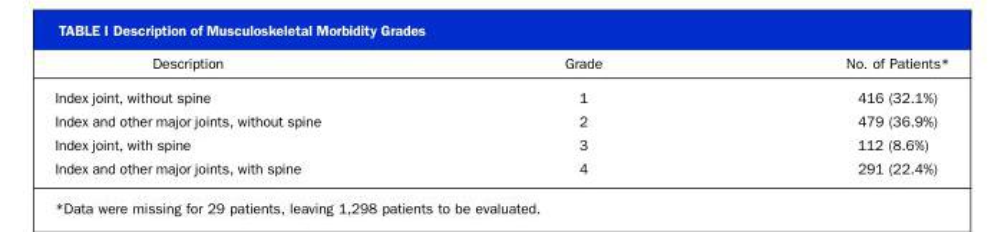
<table><thead><tr><td>Description</td><td>Grade</td><td>No. of Patients*</td></tr></thead><tbody><tr><td>Index joint, without spine</td><td>1</td><td>416 (32.1%)</td></tr><tr><td>Index and other major joints, without spine</td><td>2</td><td>479 (36.9%)</td></tr><tr><td>Index joint, with spine</td><td>3</td><td>112 (8.6%)</td></tr><tr><td>Index and other major joints, with spine</td><td>4</td><td>291 (22.4%)</td></tr></tbody></table>